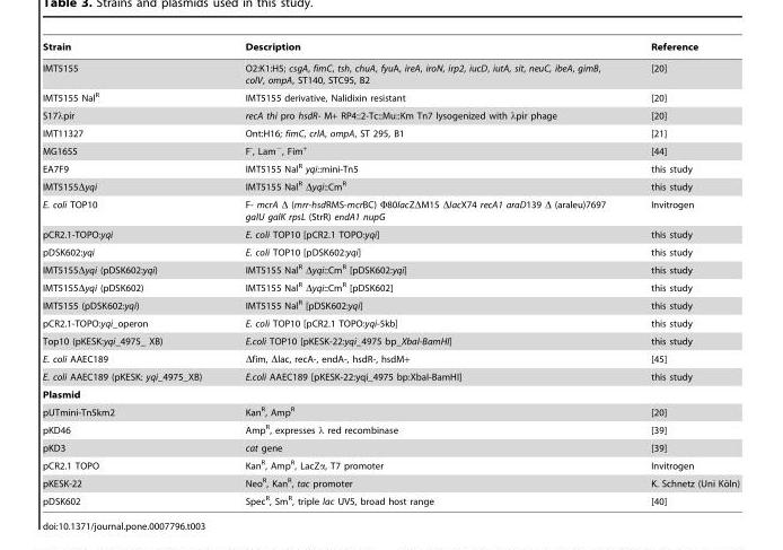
<table><thead><tr><td>Strain</td><td>Description</td><td>Reference</td></tr></thead><tbody><tr><td>IMT5155</td><td>O2:K1:H5; csgA, fimC, tsh, chuA, fyuA, ireA, iroN, irp2, iucD, iutA, sit, neuC, ibeA, gimB, colV, ompA, ST140, STC95, B2</td><td>[20]</td></tr><tr><td>IMT5155 Nal<sup>R</sup></td><td>IMT5155 derivative, Nalidixin resistant</td><td>[20]</td></tr><tr><td>S17λpir</td><td>recA thi pro hsdR- M+ RP4::2-Tc::Mu::Km Tn7 lysogenized with λpir phage</td><td>[20]</td></tr><tr><td>IMT11327</td><td>Ont:H16; fimC, crlA, ompA, ST 295, B1</td><td>[21]</td></tr><tr><td>MG1655</td><td>F<sup>-</sup>, Lam<sup>−</sup>, Fim<sup>+</sup></td><td>[44]</td></tr><tr><td>EA7F9</td><td>IMT5155 Nal<sup>R</sup> yqi::mini-Tn5</td><td>this study</td></tr><tr><td>IMT5155Δyqi</td><td>IMT5155 Nal<sup>R</sup> Δyqi::Cm<sup>R</sup></td><td>this study</td></tr><tr><td>E. coli TOP10</td><td>F- mcrA Δ (mrr-hsdRMS-mcrBC) Φ80lacZΔM15 ΔlacX74 recA1 araD139 Δ (araleu)7697 galU galK rpsL (StrR) endA1 nupG</td><td>Invitrogen</td></tr><tr><td>pCR2.1-TOPO:yqi</td><td>E. coli TOP10 [pCR2.1 TOPO:yqi]</td><td>this study</td></tr><tr><td>pDSK602:yqi</td><td>E. coli TOP10 [pDSK602:yqi]</td><td>this study</td></tr><tr><td>IMT5155Δyqi (pDSK602:yqi)</td><td>IMT5155 Nal<sup>R</sup> Δyqi::Cm<sup>R</sup> [pDSK602:yqi]</td><td>this study</td></tr><tr><td>IMT5155Δyqi (pDSK602)</td><td>IMT5155 Nal<sup>R</sup> Δyqi::Cm<sup>R</sup> [pDSK602]</td><td>this study</td></tr><tr><td>IMT5155 (pDSK602:yqi)</td><td>IMT5155 Nal<sup>R</sup> [pDSK602:yqi]</td><td>this study</td></tr><tr><td>pCR2.1-TOPO:yqi_operon</td><td>E. coli TOP10 [pCR2.1 TOPO:yqi-5kb]</td><td>this study</td></tr><tr><td>Top10 (pKESK:yqi_4975_ XB)</td><td>E.coli TOP10 [pKESK-22:yqi_4975 bp_XbaI-BamHI]</td><td>this study</td></tr><tr><td>E. coli AAEC189</td><td>Δfim, Δlac, recA-, endA-, hsdR-, hsdM+</td><td>[45]</td></tr><tr><td>E. coli AAEC189 (pKESK: yqi_4975_XB)</td><td>E.coli AAEC189 [pKESK-22:yqi_4975 bp:XbaI-BamHI]</td><td>this study</td></tr><tr><td colspan="3">Plasmid</td></tr><tr><td>pUTmini-Tn5km2</td><td>Kan<sup>R</sup>, Amp<sup>R</sup></td><td>[20]</td></tr><tr><td>pKD46</td><td>Amp<sup>R</sup>, expresses λ red recombinase</td><td>[39]</td></tr><tr><td>pKD3</td><td>cat gene</td><td>[39]</td></tr><tr><td>pCR2.1 TOPO</td><td>Kan<sup>R</sup>, Amp<sup>R</sup>, LacZα, T7 promoter</td><td>Invitrogen</td></tr><tr><td>pKESK-22</td><td>Neo<sup>R</sup>, Kan<sup>R</sup>, tac promoter</td><td>K. Schnetz (Uni Ko¨ln)</td></tr><tr><td>pDSK602</td><td>Spec<sup>R</sup>, Sm<sup>R</sup>, triple lac UV5, broad host range</td><td>[40]</td></tr></tbody></table>